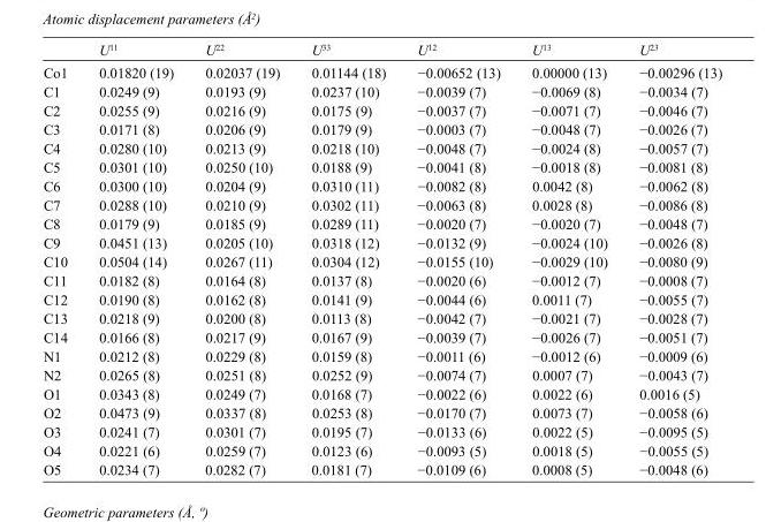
<table><thead><tr><td></td><td>U<sup>11</sup></td><td>U<sup>22</sup></td><td>U<sup>33</sup></td><td>U<sup>12</sup></td><td>U<sup>13</sup></td><td>U<sup>23</sup></td></tr></thead><tbody><tr><td>Co1</td><td>0.01820 (19)</td><td>0.02037 (19)</td><td>0.01144 (18)</td><td>−0.00652 (13)</td><td>0.00000 (13)</td><td>−0.00296 (13)</td></tr><tr><td>C1</td><td>0.0249 (9)</td><td>0.0193 (9)</td><td>0.0237 (10)</td><td>−0.0039 (7)</td><td>−0.0069 (8)</td><td>−0.0034 (7)</td></tr><tr><td>C2</td><td>0.0255 (9)</td><td>0.0216 (9)</td><td>0.0175 (9)</td><td>−0.0037 (7)</td><td>−0.0071 (7)</td><td>−0.0046 (7)</td></tr><tr><td>C3</td><td>0.0171 (8)</td><td>0.0206 (9)</td><td>0.0179 (9)</td><td>−0.0003 (7)</td><td>−0.0048 (7)</td><td>−0.0026 (7)</td></tr><tr><td>C4</td><td>0.0280 (10)</td><td>0.0213 (9)</td><td>0.0218 (10)</td><td>−0.0048 (7)</td><td>−0.0024 (8)</td><td>−0.0057 (7)</td></tr><tr><td>C5</td><td>0.0301 (10)</td><td>0.0250 (10)</td><td>0.0188 (9)</td><td>−0.0041 (8)</td><td>−0.0018 (8)</td><td>−0.0081 (8)</td></tr><tr><td>C6</td><td>0.0300 (10)</td><td>0.0204 (9)</td><td>0.0310 (11)</td><td>−0.0082 (8)</td><td>0.0042 (8)</td><td>−0.0062 (8)</td></tr><tr><td>C7</td><td>0.0288 (10)</td><td>0.0210 (9)</td><td>0.0302 (11)</td><td>−0.0063 (8)</td><td>0.0028 (8)</td><td>−0.0086 (8)</td></tr><tr><td>C8</td><td>0.0179 (9)</td><td>0.0185 (9)</td><td>0.0289 (11)</td><td>−0.0020 (7)</td><td>−0.0020 (7)</td><td>−0.0048 (7)</td></tr><tr><td>C9</td><td>0.0451 (13)</td><td>0.0205 (10)</td><td>0.0318 (12)</td><td>−0.0132 (9)</td><td>−0.0024 (10)</td><td>−0.0026 (8)</td></tr><tr><td>C10</td><td>0.0504 (14)</td><td>0.0267 (11)</td><td>0.0304 (12)</td><td>−0.0155 (10)</td><td>−0.0029 (10)</td><td>−0.0080 (9)</td></tr><tr><td>C11</td><td>0.0182 (8)</td><td>0.0164 (8)</td><td>0.0137 (8)</td><td>−0.0020 (6)</td><td>−0.0012 (7)</td><td>−0.0008 (7)</td></tr><tr><td>C12</td><td>0.0190 (8)</td><td>0.0162 (8)</td><td>0.0141 (9)</td><td>−0.0044 (6)</td><td>0.0011 (7)</td><td>−0.0055 (7)</td></tr><tr><td>C13</td><td>0.0218 (9)</td><td>0.0200 (8)</td><td>0.0113 (8)</td><td>−0.0042 (7)</td><td>−0.0021 (7)</td><td>−0.0028 (7)</td></tr><tr><td>C14</td><td>0.0166 (8)</td><td>0.0217 (9)</td><td>0.0167 (9)</td><td>−0.0039 (7)</td><td>−0.0026 (7)</td><td>−0.0051 (7)</td></tr><tr><td>N1</td><td>0.0212 (8)</td><td>0.0229 (8)</td><td>0.0159 (8)</td><td>−0.0011 (6)</td><td>−0.0012 (6)</td><td>−0.0009 (6)</td></tr><tr><td>N2</td><td>0.0265 (8)</td><td>0.0251 (8)</td><td>0.0252 (9)</td><td>−0.0074 (7)</td><td>0.0007 (7)</td><td>−0.0043 (7)</td></tr><tr><td>O1</td><td>0.0343 (8)</td><td>0.0249 (7)</td><td>0.0168 (7)</td><td>−0.0022 (6)</td><td>0.0022 (6)</td><td>0.0016 (5)</td></tr><tr><td>O2</td><td>0.0473 (9)</td><td>0.0337 (8)</td><td>0.0253 (8)</td><td>−0.0170 (7)</td><td>0.0073 (7)</td><td>−0.0058 (6)</td></tr><tr><td>O3</td><td>0.0241 (7)</td><td>0.0301 (7)</td><td>0.0195 (7)</td><td>−0.0133 (6)</td><td>0.0022 (5)</td><td>−0.0095 (5)</td></tr><tr><td>O4</td><td>0.0221 (6)</td><td>0.0259 (7)</td><td>0.0123 (6)</td><td>−0.0093 (5)</td><td>0.0018 (5)</td><td>−0.0055 (5)</td></tr><tr><td>O5</td><td>0.0234 (7)</td><td>0.0282 (7)</td><td>0.0181 (7)</td><td>−0.0109 (6)</td><td>0.0008 (5)</td><td>−0.0048 (6)</td></tr></tbody></table>